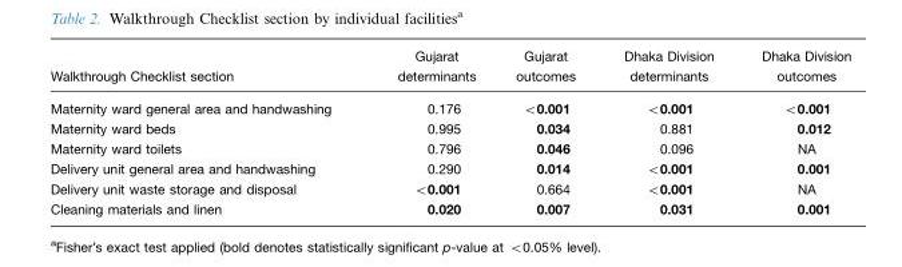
<table><thead><tr><td>Walkthrough Checklist section</td><td>Gujarat determinants</td><td>Gujarat outcomes</td><td>Dhaka Division determinants</td><td>Dhaka Division outcomes</td></tr></thead><tbody><tr><td>Maternity ward general area and handwashing</td><td>0.176</td><td>&lt;0.001</td><td>&lt;0.001</td><td>&lt;0.001</td></tr><tr><td>Maternity ward beds</td><td>0.995</td><td>0.034</td><td>0.881</td><td>0.012</td></tr><tr><td>Maternity ward toilets</td><td>0.796</td><td>0.046</td><td>0.096</td><td>NA</td></tr><tr><td>Delivery unit general area and handwashing</td><td>0.290</td><td>0.014</td><td>&lt;0.001</td><td>0.001</td></tr><tr><td>Delivery unit waste storage and disposal</td><td>&lt;0.001</td><td>0.664</td><td>&lt;0.001</td><td>NA</td></tr><tr><td>Cleaning materials and linen</td><td>0.020</td><td>0.007</td><td>0.031</td><td>0.001</td></tr></tbody></table>